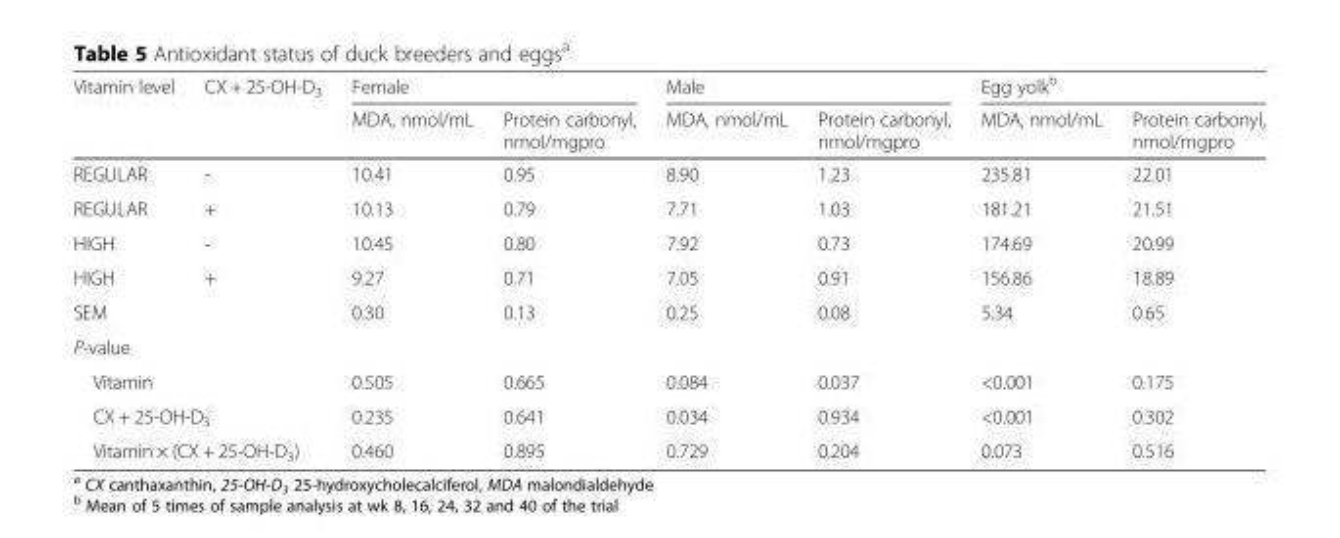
<table><thead><tr><td rowspan="2">Vitamin level</td><td rowspan="2">CX + 25-OH-D<sub>3</sub></td><td colspan="2">Female</td><td colspan="2">Male</td><td colspan="2">Egg yolk<sup>b</sup></td></tr><tr><td>MDA, nmol/mL</td><td>Protein carbonyl, nmol/mgpro</td><td>MDA, nmol/mL</td><td>Protein carbonyl, nmol/mgpro</td><td>MDA, nmol/mL</td><td>Protein carbonyl, nmol/mgpro</td></tr></thead><tbody><tr><td>REGULAR</td><td>-</td><td>10.41</td><td>0.95</td><td>8.90</td><td>1.23</td><td>235.81</td><td>22.01</td></tr><tr><td>REGULAR</td><td>+</td><td>10.13</td><td>0.79</td><td>7.71</td><td>1.03</td><td>181.21</td><td>21.51</td></tr><tr><td>HIGH</td><td>-</td><td>10.45</td><td>0.80</td><td>7.92</td><td>0.73</td><td>174.69</td><td>20.99</td></tr><tr><td>HIGH</td><td>+</td><td>9.27</td><td>0.71</td><td>7.05</td><td>0.91</td><td>156.86</td><td>18.89</td></tr><tr><td>SEM</td><td></td><td>0.30</td><td>0.13</td><td>0.25</td><td>0.08</td><td>5.34</td><td>0.65</td></tr><tr><td colspan="8">P-value</td></tr><tr><td colspan="2">Vitamin</td><td>0.505</td><td>0.665</td><td>0.084</td><td>0.037</td><td>&lt;0.001</td><td>0.175</td></tr><tr><td colspan="2">CX + 25-OH-D<sub>3</sub></td><td>0.235</td><td>0.641</td><td>0.034</td><td>0.934</td><td>&lt;0.001</td><td>0.302</td></tr><tr><td colspan="2">Vitamin × (CX + 25-OH-D<sub>3</sub>)</td><td>0.460</td><td>0.895</td><td>0.729</td><td>0.204</td><td>0.073</td><td>0.516</td></tr></tbody></table>